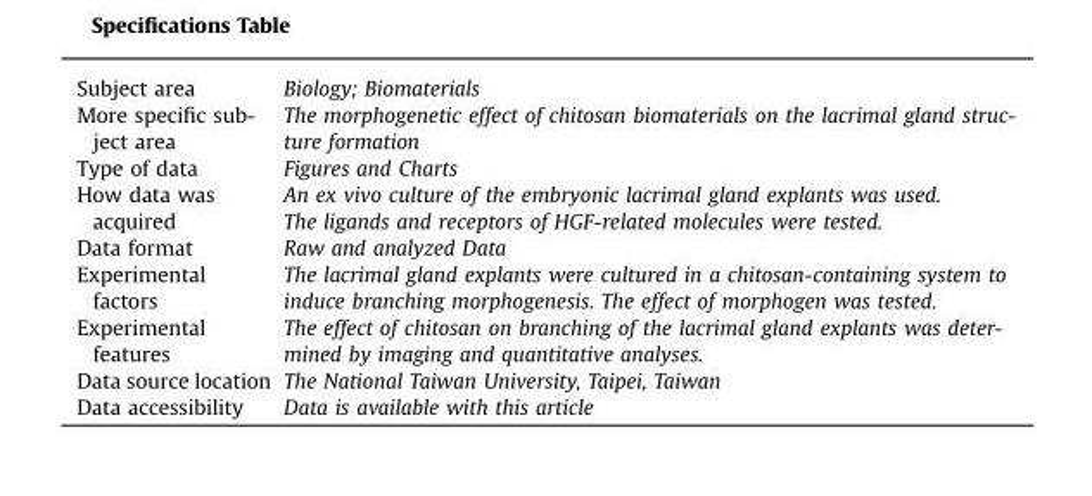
<table><tbody><tr><td>Subject area</td><td>Biology; Biomaterials</td></tr><tr><td>More specific sub- ject area</td><td>The morphogenetic effect of chitosan biomaterials on the lacrimal gland struc- ture formation</td></tr><tr><td>Type of data</td><td>Figures and Charts</td></tr><tr><td rowspan="2">How data was acquired</td><td>An ex vivo culture of the embryonic lacrimal gland explants was used.</td></tr><tr><td>The ligands and receptors of HGF-related molecules were tested.</td></tr><tr><td>Data format</td><td>Raw and analyzed Data</td></tr><tr><td>Experimental factors</td><td>The lacrimal gland explants were cultured in a chitosan-containing system to induce branching morphogenesis. The effect of morphogen was tested.</td></tr><tr><td>Experimental features</td><td>The effect of chitosan on branching of the lacrimal gland explants was deter- mined by imaging and quantitative analyses.</td></tr><tr><td>Data source location</td><td>The National Taiwan University, Taipei, Taiwan</td></tr><tr><td>Data accessibility</td><td>Data is available with this article</td></tr></tbody></table>